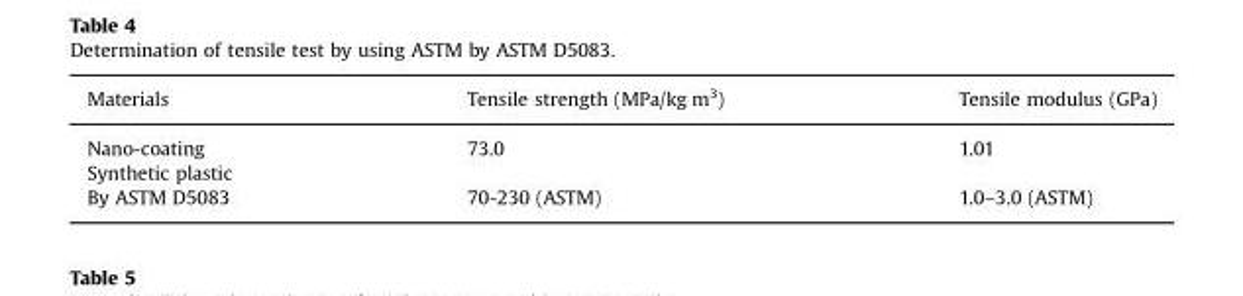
<table><thead><tr><td>Materials</td><td>Tensile strength (MPa/kg m<sup>3</sup>)</td><td>Tensile modulus (GPa)</td></tr></thead><tbody><tr><td>Nano-coating</td><td>73.0</td><td>1.01</td></tr><tr><td colspan="3">Synthetic plastic</td></tr><tr><td>By ASTM D5083</td><td>70-230 (ASTM)</td><td>1.0–3.0 (ASTM)</td></tr></tbody></table>